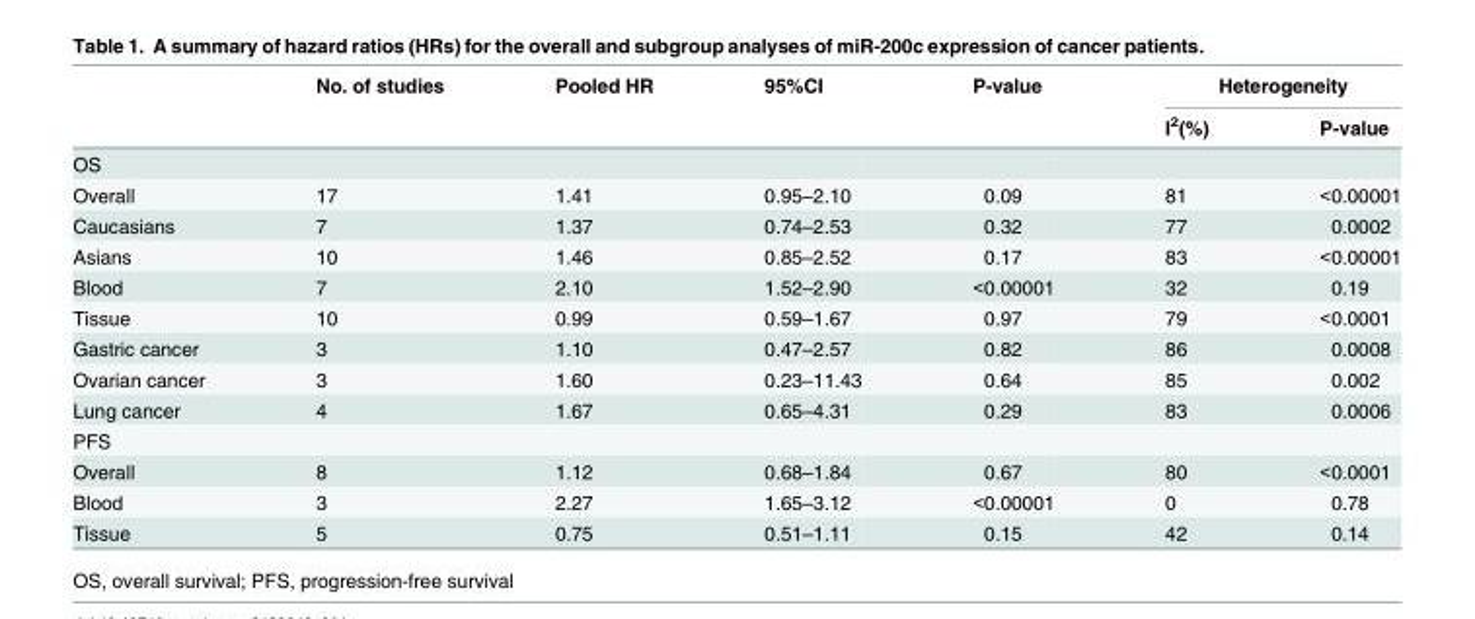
<table><thead><tr><td rowspan="2"></td><td rowspan="2">No. of studies</td><td rowspan="2">Pooled HR</td><td rowspan="2">95%CI</td><td rowspan="2">P-value</td><td colspan="2">Heterogeneity</td></tr><tr><td>I<sup>2</sup>(%)</td><td>P-value</td></tr></thead><tbody><tr><td colspan="7">OS</td></tr><tr><td>Overall</td><td>17</td><td>1.41</td><td>0.95–2.10</td><td>0.09</td><td>81</td><td>&lt;0.00001</td></tr><tr><td>Caucasians</td><td>7</td><td>1.37</td><td>0.74–2.53</td><td>0.32</td><td>77</td><td>0.0002</td></tr><tr><td>Asians</td><td>10</td><td>1.46</td><td>0.85–2.52</td><td>0.17</td><td>83</td><td>&lt;0.00001</td></tr><tr><td>Blood</td><td>7</td><td>2.10</td><td>1.52–2.90</td><td>&lt;0.00001</td><td>32</td><td>0.19</td></tr><tr><td>Tissue</td><td>10</td><td>0.99</td><td>0.59–1.67</td><td>0.97</td><td>79</td><td>&lt;0.0001</td></tr><tr><td>Gastric cancer</td><td>3</td><td>1.10</td><td>0.47–2.57</td><td>0.82</td><td>86</td><td>0.0008</td></tr><tr><td>Ovarian cancer</td><td>3</td><td>1.60</td><td>0.23–11.43</td><td>0.64</td><td>85</td><td>0.002</td></tr><tr><td>Lung cancer</td><td>4</td><td>1.67</td><td>0.65–4.31</td><td>0.29</td><td>83</td><td>0.0006</td></tr><tr><td colspan="7">PFS</td></tr><tr><td>Overall</td><td>8</td><td>1.12</td><td>0.68–1.84</td><td>0.67</td><td>80</td><td>&lt;0.0001</td></tr><tr><td>Blood</td><td>3</td><td>2.27</td><td>1.65–3.12</td><td>&lt;0.00001</td><td>0</td><td>0.78</td></tr><tr><td>Tissue</td><td>5</td><td>0.75</td><td>0.51–1.11</td><td>0.15</td><td>42</td><td>0.14</td></tr></tbody></table>